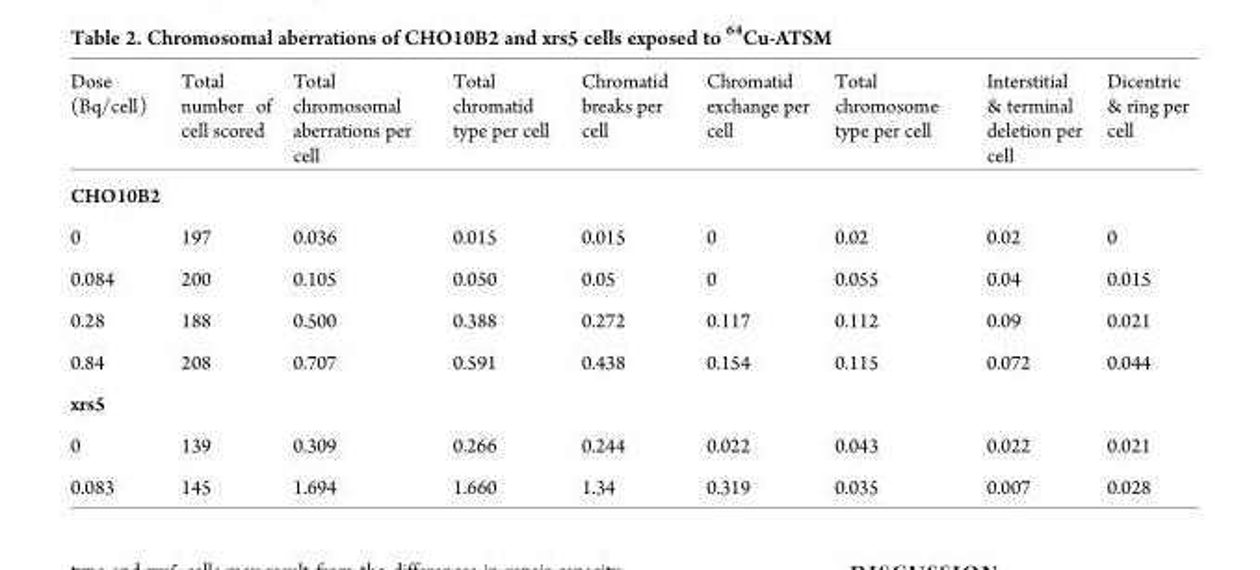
<table><thead><tr><td>Dose (Bq/cell)</td><td>Total number of cell scored</td><td>Total chromosomal aberrations per cell</td><td>Total chromatid type per cell</td><td>Chromatid breaks per cell</td><td>Chromatid exchange per cell</td><td>Total chromosome type per cell</td><td>Interstitial &amp; terminal deletion per cell</td><td>Dicentric &amp; ring per cell</td></tr></thead><tbody><tr><td colspan="9">CHO10B2</td></tr><tr><td>0</td><td>197</td><td>0.036</td><td>0.015</td><td>0.015</td><td>0</td><td>0.02</td><td>0.02</td><td>0</td></tr><tr><td>0.084</td><td>200</td><td>0.105</td><td>0.050</td><td>0.05</td><td>0</td><td>0.055</td><td>0.04</td><td>0.015</td></tr><tr><td>0.28</td><td>188</td><td>0.500</td><td>0.388</td><td>0.272</td><td>0.117</td><td>0.112</td><td>0.09</td><td>0.021</td></tr><tr><td>0.84</td><td>208</td><td>0.707</td><td>0.591</td><td>0.438</td><td>0.154</td><td>0.115</td><td>0.072</td><td>0.044</td></tr><tr><td colspan="9">xrs5</td></tr><tr><td>0</td><td>139</td><td>0.309</td><td>0.266</td><td>0.244</td><td>0.022</td><td>0.043</td><td>0.022</td><td>0.021</td></tr><tr><td>0.083</td><td>145</td><td>1.694</td><td>1.660</td><td>1.34</td><td>0.319</td><td>0.035</td><td>0.007</td><td>0.028</td></tr></tbody></table>